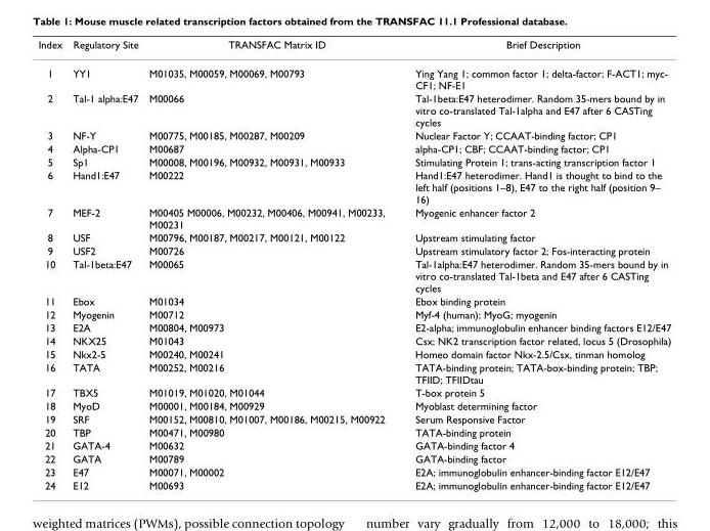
<table><thead><tr><td>Index</td><td>Regulatory Site</td><td>TRANSFAC Matrix ID</td><td>Brief Description</td></tr></thead><tbody><tr><td>1</td><td>YY1</td><td>M01035, M00059, M00069, M00793</td><td>Ying Yang 1; common factor 1; delta-factor; F-ACT1; myc- CF1; NF-E1</td></tr><tr><td>2</td><td>Tal-1 alpha:E47</td><td>M00066</td><td>Tal-1beta:E47 heterodimer. Random 35-mers bound by in vitro co-translated Tal-1alpha and E47 after 6 CASTing cycles</td></tr><tr><td>3</td><td>NF-Y</td><td>M00775, M00185, M00287, M00209</td><td>Nuclear Factor Y; CCAAT-binding factor; CP1</td></tr><tr><td>4</td><td>Alpha-CP1</td><td>M00687</td><td>alpha-CP1; CBF; CCAAT-binding factor; CP1</td></tr><tr><td>5</td><td>Sp1</td><td>M00008, M00196, M00932, M00931, M00933</td><td>Stimulating Protein 1; trans-acting transcription factor 1</td></tr><tr><td>6</td><td>Hand1:E47</td><td>M00222</td><td>Hand1:E47 heterodimer. Hand1 is thought to bind to the left half (positions 1–8), E47 to the right half (position 9– 16)</td></tr><tr><td>7</td><td>MEF-2</td><td>M00405 M00006, M00232, M00406, M00941, M00233, M00231</td><td>Myogenic enhancer factor 2</td></tr><tr><td>8</td><td>USF</td><td>M00796, M00187, M00217, M00121, M00122</td><td>Upstream stimulating factor</td></tr><tr><td>9</td><td>USF2</td><td>M00726</td><td>Upstream stimulatory factor 2; Fos-interacting protein</td></tr><tr><td>10</td><td>Tal-1beta:E47</td><td>M00065</td><td>Tal-1alpha:E47 heterodimer. Random 35-mers bound by in vitro co-translated Tal-1beta and E47 after 6 CASTing cycles</td></tr><tr><td>11</td><td>Ebox</td><td>M01034</td><td>Ebox binding protein</td></tr><tr><td>12</td><td>Myogenin</td><td>M00712</td><td>Myf-4 (human); MyoG; myogenin</td></tr><tr><td>13</td><td>E2A</td><td>M00804, M00973</td><td>E2-alpha; immunoglobulin enhancer binding factors E12/E47</td></tr><tr><td>14</td><td>NKX25</td><td>M01043</td><td>Csx; NK2 transcription factor related, locus 5 (Drosophila)</td></tr><tr><td>15</td><td>Nkx2-5</td><td>M00240, M00241</td><td>Homeo domain factor Nkx-2.5/Csx, tinman homolog</td></tr><tr><td>16</td><td>TATA</td><td>M00252, M00216</td><td>TATA-binding protein; TATA-box-binding protein; TBP; TFIID; TFIIDtau</td></tr><tr><td>17</td><td>TBX5</td><td>M01019, M01020, M01044</td><td>T-box protein 5</td></tr><tr><td>18</td><td>MyoD</td><td>M00001, M00184, M00929</td><td>Myoblast determining factor</td></tr><tr><td>19</td><td>SRF</td><td>M00152, M00810, M01007, M00186, M00215, M00922</td><td>Serum Responsive Factor</td></tr><tr><td>20</td><td>TBP</td><td>M00471, M00980</td><td>TATA-binding protein</td></tr><tr><td>21</td><td>GATA-4</td><td>M00632</td><td>GATA-binding factor 4</td></tr><tr><td>22</td><td>GATA</td><td>M00789</td><td>GATA-binding factor</td></tr><tr><td>23</td><td>E47</td><td>M00071, M00002</td><td>E2A; immunoglobulin enhancer-binding factor E12/E47</td></tr><tr><td>24</td><td>E12</td><td>M00693</td><td>E2A; immunoglobulin enhancer-binding factor E12/E47</td></tr></tbody></table>